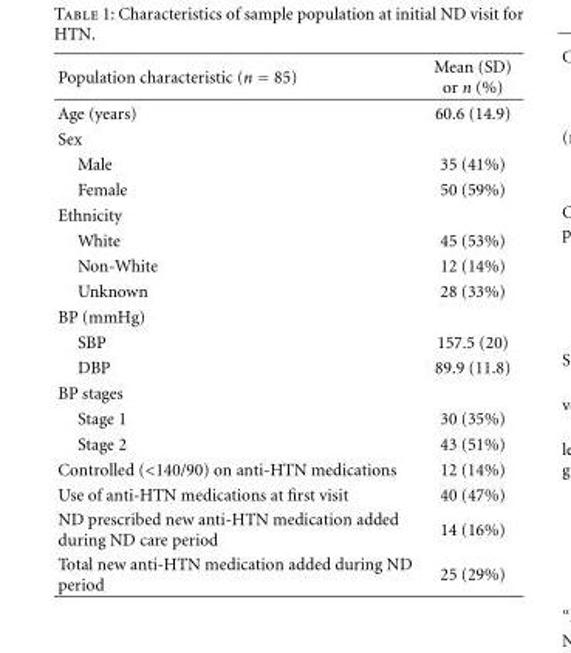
<table><thead><tr><td>Population characteristic (n = 85)</td><td>Mean (SD) or n (%)</td></tr></thead><tbody><tr><td>Age (years)</td><td>60.6 (14.9)</td></tr><tr><td colspan="2">Sex</td></tr><tr><td>Male</td><td>35 (41%)</td></tr><tr><td>Female</td><td>50 (59%)</td></tr><tr><td colspan="2">Ethnicity</td></tr><tr><td>White</td><td>45 (53%)</td></tr><tr><td>Non-White</td><td>12 (14%)</td></tr><tr><td>Unknown</td><td>28 (33%)</td></tr><tr><td colspan="2">BP (mmHg)</td></tr><tr><td>SBP</td><td>157.5 (20)</td></tr><tr><td>DBP</td><td>89.9 (11.8)</td></tr><tr><td colspan="2">BP stages</td></tr><tr><td>Stage 1</td><td>30 (35%)</td></tr><tr><td>Stage 2</td><td>43 (51%)</td></tr><tr><td>Controlled (&lt;140/90) on anti-HTN medications</td><td>12 (14%)</td></tr><tr><td>Use of anti-HTN medications at first visit</td><td>40 (47%)</td></tr><tr><td>ND prescribed new anti-HTN medication added during ND care period</td><td>14 (16%)</td></tr><tr><td>Total new anti-HTN medication added during ND period</td><td>25 (29%)</td></tr></tbody></table>